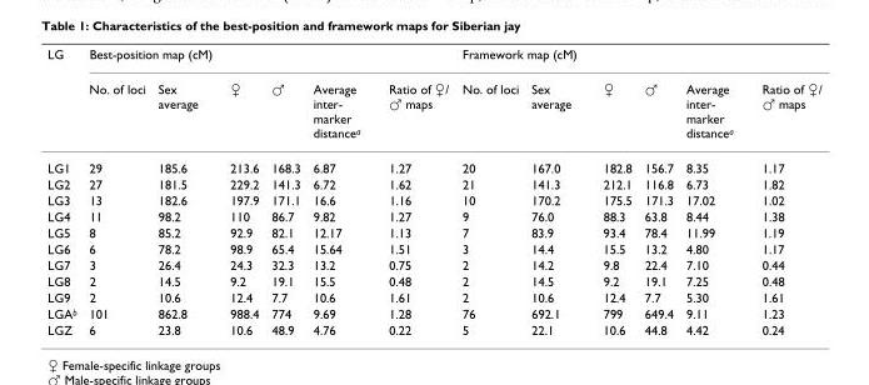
<table><thead><tr><td rowspan="2">LG</td><td colspan="6">Best-position map (cM)</td><td colspan="6">Framework map (cM)</td></tr><tr><td>No. of loci</td><td>Sex average</td><td>♀</td><td>♂</td><td>Average inter- marker distance<sup>a</sup></td><td>Ratio of ♀/ ♂ maps</td><td>No. of loci</td><td>Sex average</td><td>♀</td><td>♂</td><td>Average inter- marker distance<sup>a</sup></td><td>Ratio of ♀/ ♂ maps</td></tr></thead><tbody><tr><td>LG1</td><td>29</td><td>185.6</td><td>213.6</td><td>168.3</td><td>6.87</td><td>1.27</td><td>20</td><td>167.0</td><td>182.8</td><td>156.7</td><td>8.35</td><td>1.17</td></tr><tr><td>LG2</td><td>27</td><td>181.5</td><td>229.2</td><td>141.3</td><td>6.72</td><td>1.62</td><td>21</td><td>141.3</td><td>212.1</td><td>116.8</td><td>6.73</td><td>1.82</td></tr><tr><td>LG3</td><td>13</td><td>182.6</td><td>197.9</td><td>171.1</td><td>16.6</td><td>1.16</td><td>10</td><td>170.2</td><td>175.5</td><td>171.3</td><td>17.02</td><td>1.02</td></tr><tr><td>LG4</td><td>11</td><td>98.2</td><td>110</td><td>86.7</td><td>9.82</td><td>1.27</td><td>9</td><td>76.0</td><td>88.3</td><td>63.8</td><td>8.44</td><td>1.38</td></tr><tr><td>LG5</td><td>8</td><td>85.2</td><td>92.9</td><td>82.1</td><td>12.17</td><td>1.13</td><td>7</td><td>83.9</td><td>93.4</td><td>78.4</td><td>11.99</td><td>1.19</td></tr><tr><td>LG6</td><td>6</td><td>78.2</td><td>98.9</td><td>65.4</td><td>15.64</td><td>1.51</td><td>3</td><td>14.4</td><td>15.5</td><td>13.2</td><td>4.80</td><td>1.17</td></tr><tr><td>LG7</td><td>3</td><td>26.4</td><td>24.3</td><td>32.3</td><td>13.2</td><td>0.75</td><td>2</td><td>14.2</td><td>9.8</td><td>22.4</td><td>7.10</td><td>0.44</td></tr><tr><td>LG8</td><td>2</td><td>14.5</td><td>9.2</td><td>19.1</td><td>15.5</td><td>0.48</td><td>2</td><td>14.5</td><td>9.2</td><td>19.1</td><td>7.25</td><td>0.48</td></tr><tr><td>LG9</td><td>2</td><td>10.6</td><td>12.4</td><td>7.7</td><td>10.6</td><td>1.61</td><td>2</td><td>10.6</td><td>12.4</td><td>7.7</td><td>5.30</td><td>1.61</td></tr><tr><td>LGA<sup>b</sup></td><td>101</td><td>862.8</td><td>988.4</td><td>774</td><td>9.69</td><td>1.28</td><td>76</td><td>692.1</td><td>799</td><td>649.4</td><td>9.11</td><td>1.23</td></tr><tr><td>LGZ</td><td>6</td><td>23.8</td><td>10.6</td><td>48.9</td><td>4.76</td><td>0.22</td><td>5</td><td>22.1</td><td>10.6</td><td>44.8</td><td>4.42</td><td>0.24</td></tr></tbody></table>